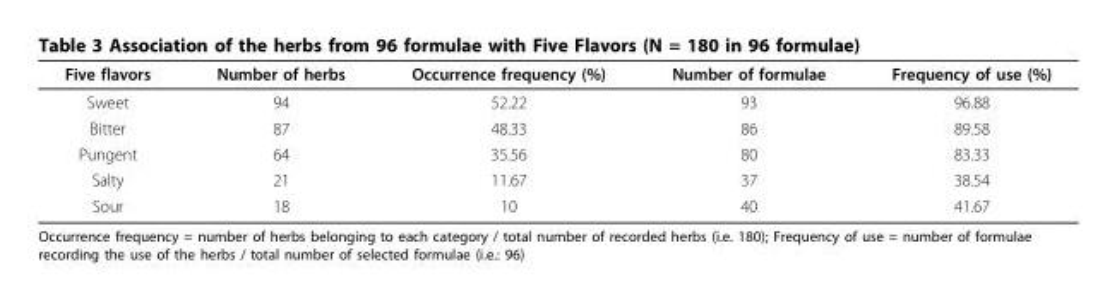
<table><thead><tr><td>Five flavors</td><td>Number of herbs</td><td>Occurrence frequency (%)</td><td>Number of formulae</td><td>Frequency of use (%)</td></tr></thead><tbody><tr><td>Sweet</td><td>94</td><td>52.22</td><td>93</td><td>96.88</td></tr><tr><td>Bitter</td><td>87</td><td>48.33</td><td>86</td><td>89.58</td></tr><tr><td>Pungent</td><td>64</td><td>35.56</td><td>80</td><td>83.33</td></tr><tr><td>Salty</td><td>21</td><td>11.67</td><td>37</td><td>38.54</td></tr><tr><td>Sour</td><td>18</td><td>10</td><td>40</td><td>41.67</td></tr></tbody></table>